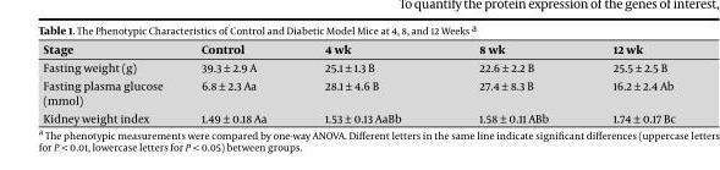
<table><thead><tr><td>Stage</td><td>Control</td><td>4 wk</td><td>8 wk</td><td>12 wk</td></tr></thead><tbody><tr><td>Fasting weight (g)</td><td>39.3 ± 2.9 A</td><td>25.1 ± 1.3 B</td><td>22.6 ± 2.2 B</td><td>25.5 ± 2.5 B</td></tr><tr><td>Fasting plasma glucose (mmol)</td><td>6.8 ± 2.3 Aa</td><td>28.1 ± 4.6 B</td><td>27.4 ± 8.3 B</td><td>16.2 ± 2.4 Ab</td></tr><tr><td>Kidney weight index</td><td>1.49 ± 0.18 Aa</td><td>1.53 ± 0.13 AaBb</td><td>1.58 ± 0.11 ABb</td><td>1.74 ± 0.17 Bc</td></tr></tbody></table>